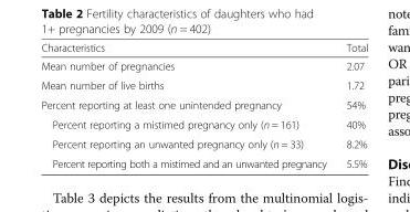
<table><thead><tr><td>Characteristics</td><td>Total</td></tr></thead><tbody><tr><td>Mean number of pregnancies</td><td>2.07</td></tr><tr><td>Mean number of live births</td><td>1.72</td></tr><tr><td>Percent reporting at least one unintended pregnancy</td><td>54%</td></tr><tr><td>Percent reporting a mistimed pregnancy only (n = 161)</td><td>40%</td></tr><tr><td>Percent reporting an unwanted pregnancy only (n = 33)</td><td>8.2%</td></tr><tr><td>Percent reporting both a mistimed and an unwanted pregnancy</td><td>5.5%</td></tr></tbody></table>